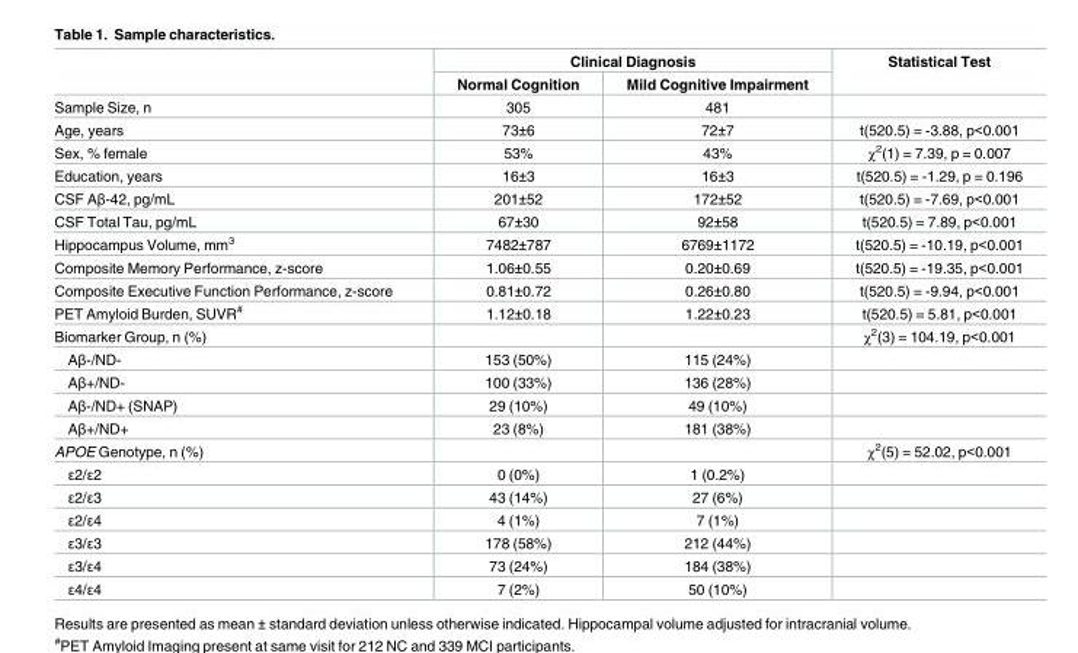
<table><thead><tr><td rowspan="2"></td><td colspan="2">Clinical Diagnosis</td><td rowspan="2">Statistical Test</td></tr><tr><td>Normal Cognition</td><td>Mild Cognitive Impairment</td></tr></thead><tbody><tr><td>Sample Size, n</td><td>305</td><td>481</td><td></td></tr><tr><td>Age, years</td><td>73±6</td><td>72±7</td><td>t(520.5) = -3.88, p&lt;0.001</td></tr><tr><td>Sex, % female</td><td>53%</td><td>43%</td><td>χ<sup>2</sup>(1) = 7.39, p = 0.007</td></tr><tr><td>Education, years</td><td>16±3</td><td>16±3</td><td>t(520.5) = -1.29, p = 0.196</td></tr><tr><td>CSF Aβ-42, pg/mL</td><td>201±52</td><td>172±52</td><td>t(520.5) = -7.69, p&lt;0.001</td></tr><tr><td>CSF Total Tau, pg/mL</td><td>67±30</td><td>92±58</td><td>t(520.5) = 7.89, p&lt;0.001</td></tr><tr><td>Hippocampus Volume, mm<sup>3</sup></td><td>7482±787</td><td>6769±1172</td><td>t(520.5) = -10.19, p&lt;0.001</td></tr><tr><td>Composite Memory Performance, z-score</td><td>1.06±0.55</td><td>0.20±0.69</td><td>t(520.5) = -19.35, p&lt;0.001</td></tr><tr><td>Composite Executive Function Performance, z-score</td><td>0.81±0.72</td><td>0.26±0.80</td><td>t(520.5) = -9.94, p&lt;0.001</td></tr><tr><td>PET Amyloid Burden, SUVR<sup>#</sup></td><td>1.12±0.18</td><td>1.22±0.23</td><td>t(520.5) = 5.81, p&lt;0.001</td></tr><tr><td>Biomarker Group, n (%)</td><td></td><td></td><td>χ<sup>2</sup>(3) = 104.19, p&lt;0.001</td></tr><tr><td>Aβ-/ND-</td><td>153 (50%)</td><td>115 (24%)</td><td></td></tr><tr><td>Aβ+/ND-</td><td>100 (33%)</td><td>136 (28%)</td><td></td></tr><tr><td>Aβ-/ND+ (SNAP)</td><td>29 (10%)</td><td>49 (10%)</td><td></td></tr><tr><td>Aβ+/ND+</td><td>23 (8%)</td><td>181 (38%)</td><td></td></tr><tr><td>APOE Genotype, n (%)</td><td></td><td></td><td>χ<sup>2</sup>(5) = 52.02, p&lt;0.001</td></tr><tr><td>ε2/ε2</td><td>0 (0%)</td><td>1 (0.2%)</td><td></td></tr><tr><td>ε2/ε3</td><td>43 (14%)</td><td>27 (6%)</td><td></td></tr><tr><td>ε2/ε4</td><td>4 (1%)</td><td>7 (1%)</td><td></td></tr><tr><td>ε3/ε3</td><td>178 (58%)</td><td>212 (44%)</td><td></td></tr><tr><td>ε3/ε4</td><td>73 (24%)</td><td>184 (38%)</td><td></td></tr><tr><td>ε4/ε4</td><td>7 (2%)</td><td>50 (10%)</td><td></td></tr></tbody></table>